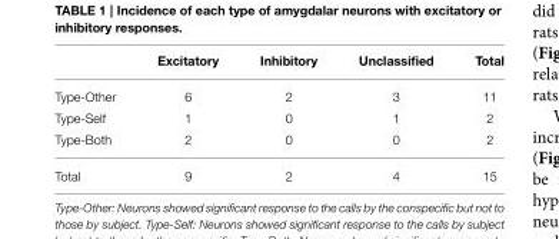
<table><thead><tr><td></td><td>Excitatory</td><td>Inhibitory</td><td>Unclassified</td><td>Total</td></tr></thead><tbody><tr><td>Type-Other</td><td>6</td><td>2</td><td>3</td><td>11</td></tr><tr><td>Type-Self</td><td>1</td><td>0</td><td>1</td><td>2</td></tr><tr><td>Type-Both</td><td>2</td><td>0</td><td>0</td><td>2</td></tr><tr><td>Total</td><td>9</td><td>2</td><td>4</td><td>15</td></tr></tbody></table>